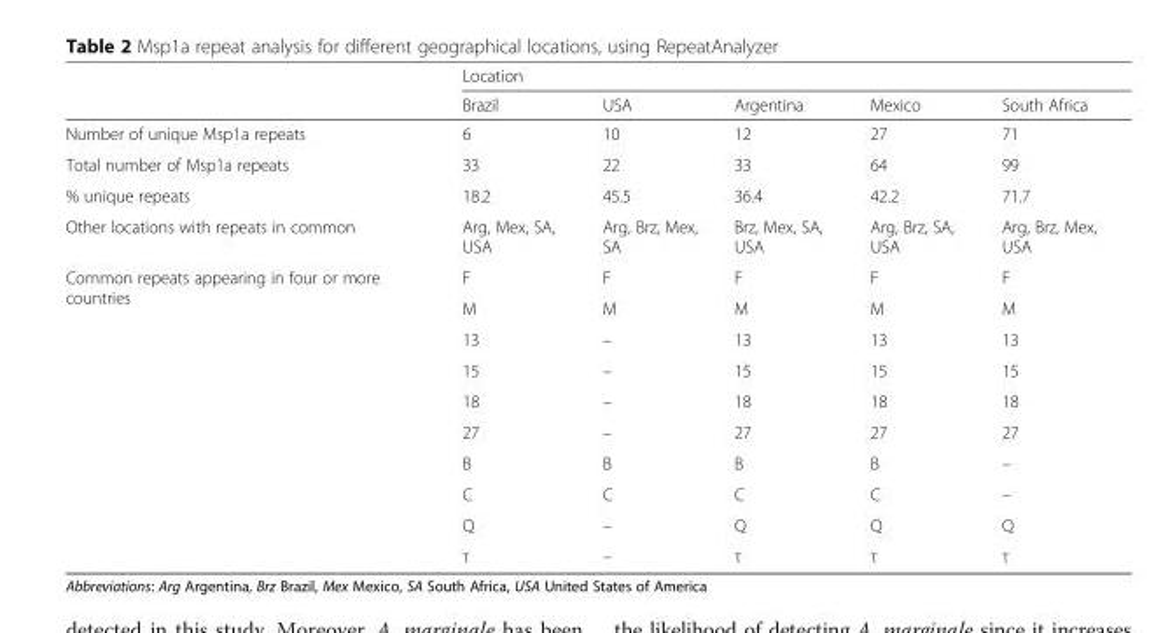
<table><thead><tr><td rowspan="2"></td><td colspan="5">Location</td></tr><tr><td>Brazil</td><td>USA</td><td>Argentina</td><td>Mexico</td><td>South Africa</td></tr></thead><tbody><tr><td>Number of unique Msp1a repeats</td><td>6</td><td>10</td><td>12</td><td>27</td><td>71</td></tr><tr><td>Total number of Msp1a repeats</td><td>33</td><td>22</td><td>33</td><td>64</td><td>99</td></tr><tr><td>% unique repeats</td><td>18.2</td><td>45.5</td><td>36.4</td><td>42.2</td><td>71.7</td></tr><tr><td>Other locations with repeats in common</td><td>Arg, Mex, SA, USA</td><td>Arg, Brz, Mex, SA</td><td>Brz, Mex, SA, USA</td><td>Arg, Brz, SA, USA</td><td>Arg, Brz, Mex, USA</td></tr><tr><td rowspan="10">Common repeats appearing in four or more countries</td><td>F</td><td>F</td><td>F</td><td>F</td><td>F</td></tr><tr><td>M</td><td>M</td><td>M</td><td>M</td><td>M</td></tr><tr><td>13</td><td>–</td><td>13</td><td>13</td><td>13</td></tr><tr><td>15</td><td>–</td><td>15</td><td>15</td><td>15</td></tr><tr><td>18</td><td>–</td><td>18</td><td>18</td><td>18</td></tr><tr><td>27</td><td>–</td><td>27</td><td>27</td><td>27</td></tr><tr><td>B</td><td>B</td><td>B</td><td>B</td><td>–</td></tr><tr><td>C</td><td>C</td><td>C</td><td>C</td><td>–</td></tr><tr><td>Q</td><td>–</td><td>Q</td><td>Q</td><td>Q</td></tr><tr><td>τ</td><td>–</td><td>τ</td><td>τ</td><td>τ</td></tr></tbody></table>